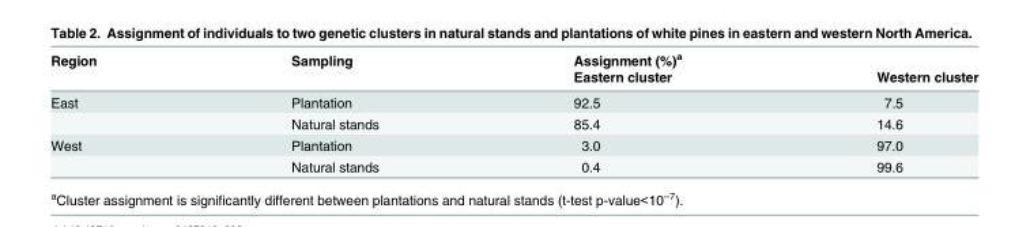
<table><thead><tr><td rowspan="2">Region</td><td rowspan="2">Sampling</td><td rowspan="2">Assignment (%)<sup>a</sup> Eastern cluster</td><td rowspan="2">Western cluster</td></tr><tr></tr></thead><tbody><tr><td rowspan="2">East</td><td>Plantation</td><td>92.5</td><td>7.5</td></tr><tr><td>Natural stands</td><td>85.4</td><td>14.6</td></tr><tr><td rowspan="2">West</td><td>Plantation</td><td>3.0</td><td>97.0</td></tr><tr><td>Natural stands</td><td>0.4</td><td>99.6</td></tr></tbody></table>